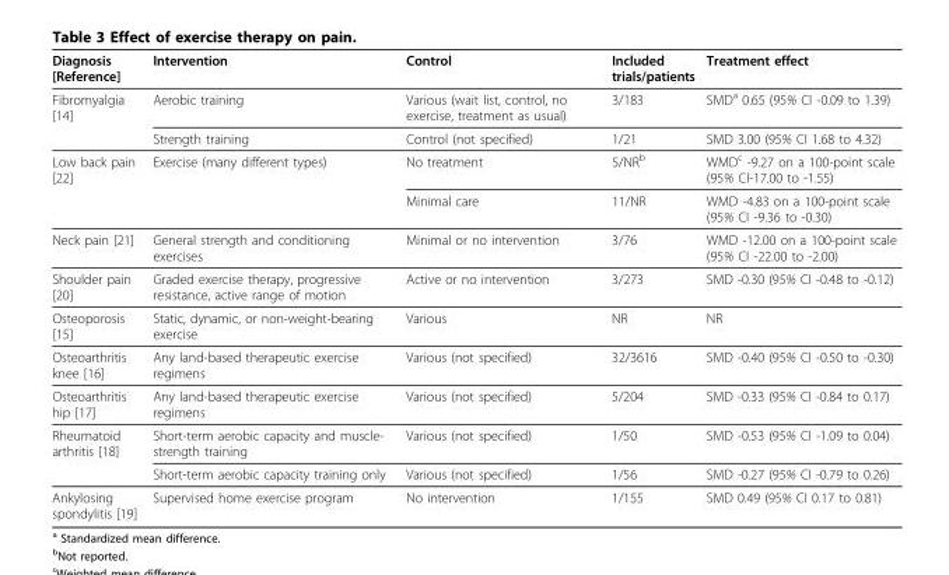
<table><thead><tr><td>Diagnosis [Reference]</td><td>Intervention</td><td>Control</td><td>Included trials/patients</td><td>Treatment effect</td></tr></thead><tbody><tr><td rowspan="2">Fibromyalgia [14]</td><td>Aerobic training</td><td>Various (wait list, control, no exercise, treatment as usual)</td><td>3/183</td><td>SMD<sup>a</sup> 0.65 (95% CI -0.09 to 1.39)</td></tr><tr><td>Strength training</td><td>Control (not specified)</td><td>1/21</td><td>SMD 3.00 (95% CI 1.68 to 4.32)</td></tr><tr><td rowspan="2">Low back pain [22]</td><td>Exercise (many different types)</td><td>No treatment</td><td>5/NR<sup>b</sup></td><td>WMD<sup>c</sup> -9.27 on a 100-point scale (95% CI-17.00 to -1.55)</td></tr><tr><td></td><td>Minimal care</td><td>11/NR</td><td>WMD -4.83 on a 100-point scale (95% CI -9.36 to -0.30)</td></tr><tr><td>Neck pain [21]</td><td>General strength and conditioning exercises</td><td>Minimal or no intervention</td><td>3/76</td><td>WMD -12.00 on a 100-point scale (95% CI -22.00 to -2.00)</td></tr><tr><td>Shoulder pain [20]</td><td>Graded exercise therapy, progressive resistance, active range of motion</td><td>Active or no intervention</td><td>3/273</td><td>SMD -0.30 (95% CI -0.48 to -0.12)</td></tr><tr><td>Osteoporosis [15]</td><td>Static, dynamic, or non-weight-bearing exercise</td><td>Various</td><td>NR</td><td>NR</td></tr><tr><td>Osteoarthritis knee [16]</td><td>Any land-based therapeutic exercise regimens</td><td>Various (not specified)</td><td>32/3616</td><td>SMD -0.40 (95% CI -0.50 to -0.30)</td></tr><tr><td>Osteoarthritis hip [17]</td><td>Any land-based therapeutic exercise regimens</td><td>Various (not specified)</td><td>5/204</td><td>SMD -0.33 (95% CI -0.84 to 0.17)</td></tr><tr><td rowspan="2">Rheumatoid arthritis [18]</td><td>Short-term aerobic capacity and muscle- strength training</td><td>Various (not specified)</td><td>1/50</td><td>SMD -0.53 (95% CI -1.09 to 0.04)</td></tr><tr><td>Short-term aerobic capacity training only</td><td>Various (not specified)</td><td>1/56</td><td>SMD -0.27 (95% CI -0.79 to 0.26)</td></tr><tr><td>Ankylosing spondylitis [19]</td><td>Supervised home exercise program</td><td>No intervention</td><td>1/155</td><td>SMD 0.49 (95% CI 0.17 to 0.81)</td></tr></tbody></table>